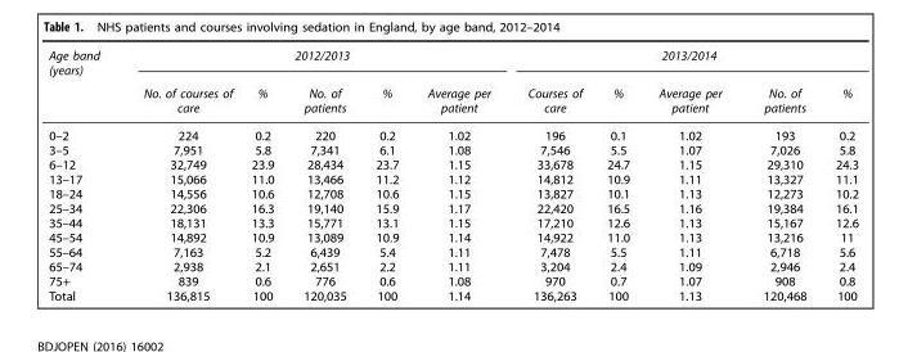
<table><thead><tr><td rowspan="2">Age band (years)</td><td colspan="5">2012/2013</td><td colspan="5">2013/2014</td></tr><tr><td>No. of courses of care</td><td>%</td><td>No. of patients</td><td>%</td><td>Average per patient</td><td>Courses of care</td><td>%</td><td>Average per patient</td><td>No. of patients</td><td>%</td></tr></thead><tbody><tr><td>0–2</td><td>224</td><td>0.2</td><td>220</td><td>0.2</td><td>1.02</td><td>196</td><td>0.1</td><td>1.02</td><td>193</td><td>0.2</td></tr><tr><td>3–5</td><td>7,951</td><td>5.8</td><td>7,341</td><td>6.1</td><td>1.08</td><td>7,546</td><td>5.5</td><td>1.07</td><td>7,026</td><td>5.8</td></tr><tr><td>6–12</td><td>32,749</td><td>23.9</td><td>28,434</td><td>23.7</td><td>1.15</td><td>33,678</td><td>24.7</td><td>1.15</td><td>29,310</td><td>24.3</td></tr><tr><td>13–17</td><td>15,066</td><td>11.0</td><td>13,466</td><td>11.2</td><td>1.12</td><td>14,812</td><td>10.9</td><td>1.11</td><td>13,327</td><td>11.1</td></tr><tr><td>18–24</td><td>14,556</td><td>10.6</td><td>12,708</td><td>10.6</td><td>1.15</td><td>13,827</td><td>10.1</td><td>1.13</td><td>12,273</td><td>10.2</td></tr><tr><td>25–34</td><td>22,306</td><td>16.3</td><td>19,140</td><td>15.9</td><td>1.17</td><td>22,420</td><td>16.5</td><td>1.16</td><td>19,384</td><td>16.1</td></tr><tr><td>35–44</td><td>18,131</td><td>13.3</td><td>15,771</td><td>13.1</td><td>1.15</td><td>17,210</td><td>12.6</td><td>1.13</td><td>15,167</td><td>12.6</td></tr><tr><td>45–54</td><td>14,892</td><td>10.9</td><td>13,089</td><td>10.9</td><td>1.14</td><td>14,922</td><td>11.0</td><td>1.13</td><td>13,216</td><td>11</td></tr><tr><td>55–64</td><td>7,163</td><td>5.2</td><td>6,439</td><td>5.4</td><td>1.11</td><td>7,478</td><td>5.5</td><td>1.11</td><td>6,718</td><td>5.6</td></tr><tr><td>65–74</td><td>2,938</td><td>2.1</td><td>2,651</td><td>2.2</td><td>1.11</td><td>3,204</td><td>2.4</td><td>1.09</td><td>2,946</td><td>2.4</td></tr><tr><td>75+</td><td>839</td><td>0.6</td><td>776</td><td>0.6</td><td>1.08</td><td>970</td><td>0.7</td><td>1.07</td><td>908</td><td>0.8</td></tr><tr><td>Total</td><td>136,815</td><td>100</td><td>120,035</td><td>100</td><td>1.14</td><td>136,263</td><td>100</td><td>1.13</td><td>120,468</td><td>100</td></tr></tbody></table>